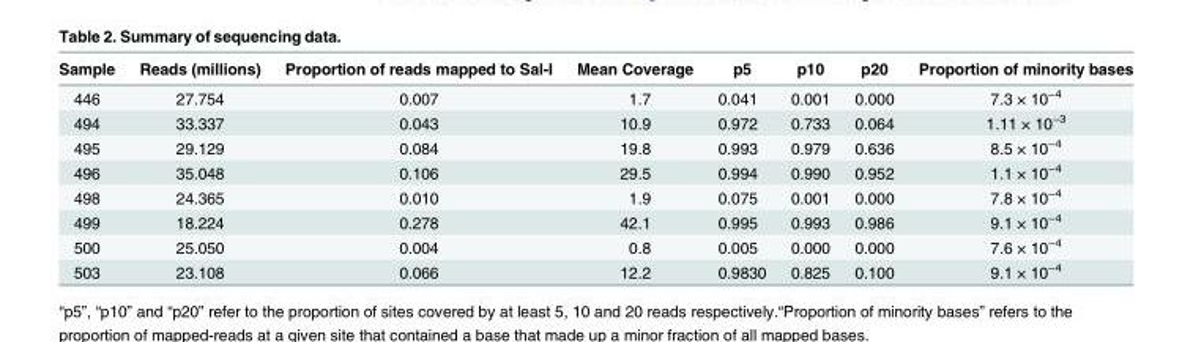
<table><thead><tr><td>Sample</td><td>Reads (millions)</td><td>Proportion of reads mapped to Sal-I</td><td>Mean Coverage</td><td>p5</td><td>p10</td><td>p20</td><td>Proportion of minority bases</td></tr></thead><tbody><tr><td>446</td><td>27.754</td><td>0.007</td><td>1.7</td><td>0.041</td><td>0.001</td><td>0.000</td><td>7.3 × 10<sup>−4</sup></td></tr><tr><td>494</td><td>33.337</td><td>0.043</td><td>10.9</td><td>0.972</td><td>0.733</td><td>0.064</td><td>1.11 × 10<sup>−3</sup></td></tr><tr><td>495</td><td>29.129</td><td>0.084</td><td>19.8</td><td>0.993</td><td>0.979</td><td>0.636</td><td>8.5 × 10<sup>−4</sup></td></tr><tr><td>496</td><td>35.048</td><td>0.106</td><td>29.5</td><td>0.994</td><td>0.990</td><td>0.952</td><td>1.1 × 10<sup>−4</sup></td></tr><tr><td>498</td><td>24.365</td><td>0.010</td><td>1.9</td><td>0.075</td><td>0.001</td><td>0.000</td><td>7.8 × 10<sup>−4</sup></td></tr><tr><td>499</td><td>18.224</td><td>0.278</td><td>42.1</td><td>0.995</td><td>0.993</td><td>0.986</td><td>9.1 × 10<sup>−4</sup></td></tr><tr><td>500</td><td>25.050</td><td>0.004</td><td>0.8</td><td>0.005</td><td>0.000</td><td>0.000</td><td>7.6 × 10<sup>−4</sup></td></tr><tr><td>503</td><td>23.108</td><td>0.066</td><td>12.2</td><td>0.9830</td><td>0.825</td><td>0.100</td><td>9.1 × 10<sup>−4</sup></td></tr></tbody></table>